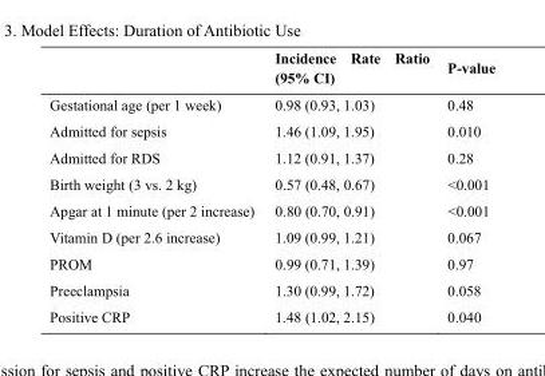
<table><thead><tr><td></td><td>Incidence Rate Ratio (95% CI)</td><td>P-value</td></tr></thead><tbody><tr><td>Gestational age (per 1 week)</td><td>0.98 (0.93, 1.03)</td><td>0.48</td></tr><tr><td>Admitted for sepsis</td><td>1.46 (1.09, 1.95)</td><td>0.010</td></tr><tr><td>Admitted for RDS</td><td>1.12 (0.91, 1.37)</td><td>0.28</td></tr><tr><td>Birth weight (3 vs. 2 kg)</td><td>0.57 (0.48, 0.67)</td><td>&lt;0.001</td></tr><tr><td>Apgar at 1 minute (per 2 increase)</td><td>0.80 (0.70, 0.91)</td><td>&lt;0.001</td></tr><tr><td>Vitamin D (per 2.6 increase)</td><td>1.09 (0.99, 1.21)</td><td>0.067</td></tr><tr><td>PROM</td><td>0.99 (0.71, 1.39)</td><td>0.97</td></tr><tr><td>Preeclampsia</td><td>1.30 (0.99, 1.72)</td><td>0.058</td></tr><tr><td>Positive CRP</td><td>1.48 (1.02, 2.15)</td><td>0.040</td></tr></tbody></table>